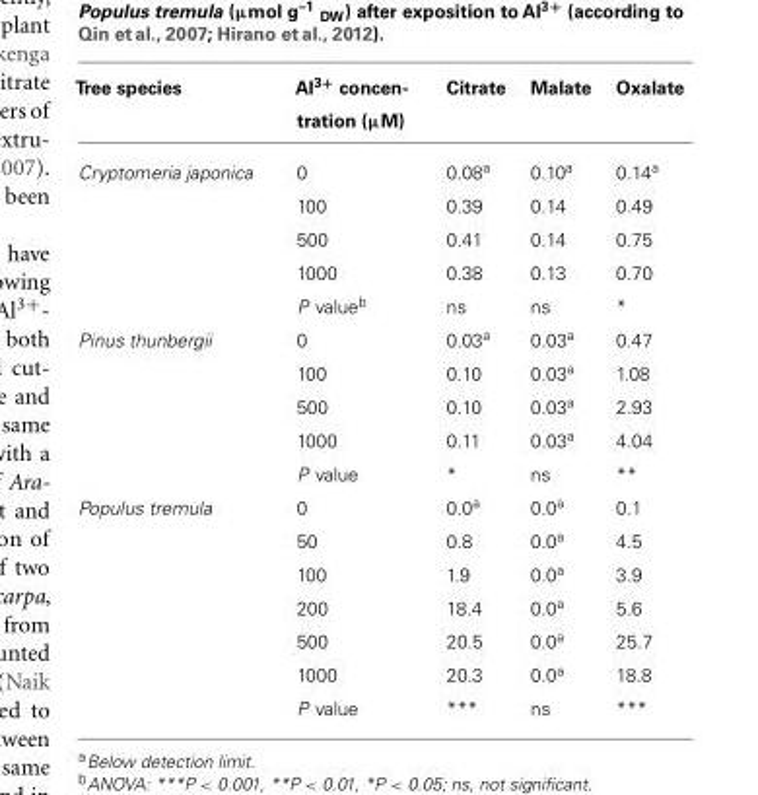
<table><thead><tr><td>Tree species</td><td>Al3+ concen- tration (μM)</td><td>Citrate</td><td>Malate</td><td>Oxalate</td></tr></thead><tbody><tr><td rowspan="5">Cryptomeria japonica</td><td>0</td><td>0.08<sup>a</sup></td><td>0.10<sup>a</sup></td><td>0.14<sup>a</sup></td></tr><tr><td>100</td><td>0.39</td><td>0.14</td><td>0.49</td></tr><tr><td>500</td><td>0.41</td><td>0.14</td><td>0.75</td></tr><tr><td>1000</td><td>0.38</td><td>0.13</td><td>0.70</td></tr><tr><td>P value<sup>b</sup></td><td>ns</td><td>ns</td><td>*</td></tr><tr><td rowspan="5">Pinus thunbergii</td><td>0</td><td>0.03<sup>a</sup></td><td>0.03<sup>a</sup></td><td>0.47</td></tr><tr><td>100</td><td>0.10</td><td>0.03<sup>a</sup></td><td>1.08</td></tr><tr><td>500</td><td>0.10</td><td>0.03<sup>a</sup></td><td>2.93</td></tr><tr><td>1000</td><td>0.11</td><td>0.03<sup>a</sup></td><td>4.04</td></tr><tr><td>P value</td><td>*</td><td>ns</td><td>**</td></tr><tr><td rowspan="7">Populus tremula</td><td>0</td><td>0.0<sup>a</sup></td><td>0.0<sup>a</sup></td><td>0.1</td></tr><tr><td>50</td><td>0.8</td><td>0.0<sup>a</sup></td><td>4.5</td></tr><tr><td>100</td><td>1.9</td><td>0.0<sup>a</sup></td><td>3.9</td></tr><tr><td>200</td><td>18.4</td><td>0.0<sup>a</sup></td><td>5.6</td></tr><tr><td>500</td><td>20.5</td><td>0.0<sup>a</sup></td><td>25.7</td></tr><tr><td>1000</td><td>20.3</td><td>0.0<sup>a</sup></td><td>18.8</td></tr><tr><td>P value</td><td>***</td><td>ns</td><td>***</td></tr></tbody></table>